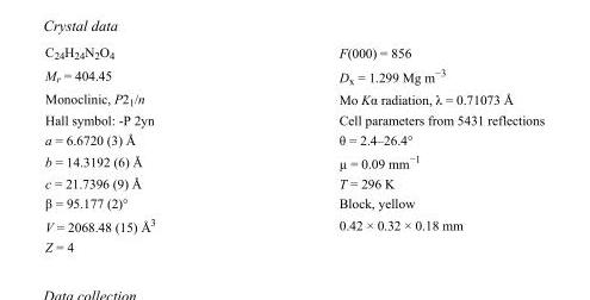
<table><tbody><tr><td>C<sub>24</sub>H<sub>24</sub>N<sub>2</sub>O<sub>4</sub></td><td>F(000) = 856</td></tr><tr><td>M<sub>r</sub> = 404.45</td><td>D<sub>x</sub> = 1.299 Mg m<sup>−3</sup></td></tr><tr><td>Monoclinic, P2<sub>1</sub>/n</td><td>Mo Kα radiation, λ = 0.71073 Å</td></tr><tr><td>Hall symbol: -P 2yn</td><td>Cell parameters from 5431 reflections</td></tr><tr><td>a = 6.6720 (3) Å</td><td>θ = 2.4–26.4°</td></tr><tr><td>b = 14.3192 (6) Å</td><td>µ = 0.09 mm<sup>−1</sup></td></tr><tr><td>c = 21.7396 (9) Å</td><td>T = 296 K</td></tr><tr><td>β = 95.177 (2)°</td><td>Block, yellow</td></tr><tr><td>V = 2068.48 (15) Å<sup>3</sup></td><td>0.42 × 0.32 × 0.18 mm</td></tr><tr><td>Z = 4</td><td></td></tr></tbody></table>